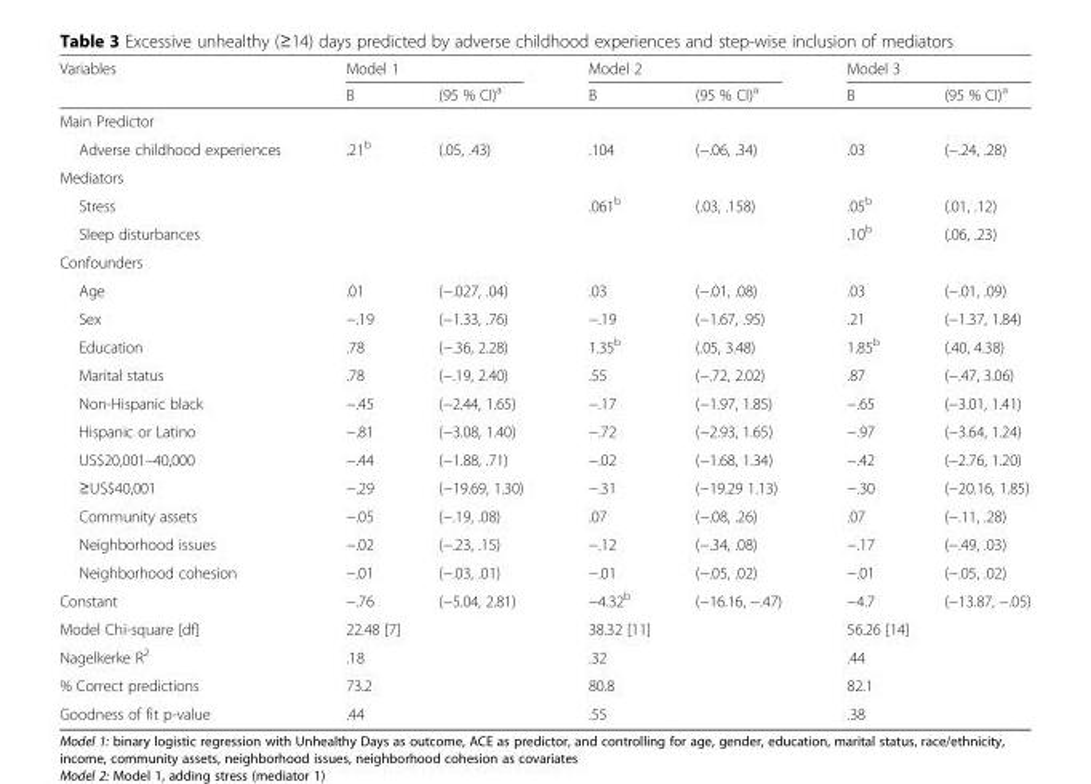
<table><thead><tr><td rowspan="2">Variables</td><td colspan="2">Model 1</td><td colspan="2">Model 2</td><td colspan="2">Model 3</td></tr><tr><td>B</td><td>(95 % CI)<sup>a</sup></td><td>B</td><td>(95 % CI)<sup>a</sup></td><td>B</td><td>(95 % CI)<sup>a</sup></td></tr></thead><tbody><tr><td colspan="7">Main Predictor</td></tr><tr><td>Adverse childhood experiences</td><td>.21<sup>b</sup></td><td>(.05, .43)</td><td>.104</td><td>(−.06, .34)</td><td>.03</td><td>(−.24, .28)</td></tr><tr><td colspan="7">Mediators</td></tr><tr><td>Stress</td><td></td><td></td><td>.061<sup>b</sup></td><td>(.03, .158)</td><td>.05<sup>b</sup></td><td>(.01, .12)</td></tr><tr><td>Sleep disturbances</td><td></td><td></td><td></td><td></td><td>.10<sup>b</sup></td><td>(.06, .23)</td></tr><tr><td colspan="7">Confounders</td></tr><tr><td>Age</td><td>.01</td><td>(−.027, .04)</td><td>.03</td><td>(−.01, .08)</td><td>.03</td><td>(−.01, .09)</td></tr><tr><td>Sex</td><td>−.19</td><td>(−1.33, .76)</td><td>−.19</td><td>(−1.67, .95)</td><td>.21</td><td>(−1.37, 1.84)</td></tr><tr><td>Education</td><td>.78</td><td>(−.36, 2.28)</td><td>1.35<sup>b</sup></td><td>(.05, 3.48)</td><td>1.85<sup>b</sup></td><td>(.40, 4.38)</td></tr><tr><td>Marital status</td><td>.78</td><td>(−.19, 2.40)</td><td>.55</td><td>(−.72, 2.02)</td><td>.87</td><td>(−.47, 3.06)</td></tr><tr><td>Non-Hispanic black</td><td>−.45</td><td>(−2.44, 1.65)</td><td>−.17</td><td>(−1.97, 1.85)</td><td>−.65</td><td>(−3.01, 1.41)</td></tr><tr><td>Hispanic or Latino</td><td>−.81</td><td>(−3.08, 1.40)</td><td>−.72</td><td>(−2.93, 1.65)</td><td>−.97</td><td>(−3.64, 1.24)</td></tr><tr><td>US$20,001–40,000</td><td>−.44</td><td>(−1.88, .71)</td><td>−.02</td><td>(−1.68, 1.34)</td><td>−.42</td><td>(−2.76, 1.20)</td></tr><tr><td>≥US$40,001</td><td>−.29</td><td>(−19.69, 1.30)</td><td>−.31</td><td>(−19.29 1.13)</td><td>−.30</td><td>(−20.16, 1.85)</td></tr><tr><td>Community assets</td><td>−.05</td><td>(−.19, .08)</td><td>.07</td><td>(−.08, .26)</td><td>.07</td><td>(−.11, .28)</td></tr><tr><td>Neighborhood issues</td><td>−.02</td><td>(−.23, .15)</td><td>−.12</td><td>(−.34, .08)</td><td>−.17</td><td>(−.49, .03)</td></tr><tr><td>Neighborhood cohesion</td><td>−.01</td><td>(−.03, .01)</td><td>−.01</td><td>(−.05, .02)</td><td>−.01</td><td>(−.05, .02)</td></tr><tr><td>Constant</td><td>−.76</td><td>(−5.04, 2.81)</td><td>−4.32<sup>b</sup></td><td>(−16.16, −.47)</td><td>−4.7</td><td>(−13.87, −.05)</td></tr><tr><td>Model Chi-square [df]</td><td colspan="2">22.48 [7]</td><td colspan="2">38.32 [11]</td><td colspan="2">56.26 [14]</td></tr><tr><td>Nagelkerke R<sup>2</sup></td><td colspan="2">.18</td><td colspan="2">.32</td><td colspan="2">.44</td></tr><tr><td>% Correct predictions</td><td colspan="2">73.2</td><td colspan="2">80.8</td><td colspan="2">82.1</td></tr><tr><td>Goodness of fit p-value</td><td colspan="2">.44</td><td colspan="2">.55</td><td colspan="2">.38</td></tr></tbody></table>